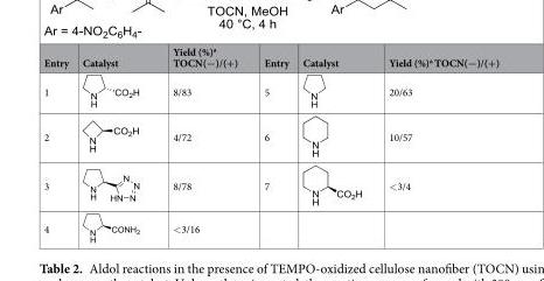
<table><thead><tr><td>Entry</td><td>Catalyst</td><td>Yield (%)<sup>a</sup> TOCN(−)/(+)</td><td>Entry</td><td>Catalyst</td><td>Yield (%)<sup>a</sup> TOCN(−)/(+)</td></tr></thead><tbody><tr><td>1</td><td></td><td>8/83</td><td>5</td><td></td><td>20/63</td></tr><tr><td>2</td><td></td><td>4/72</td><td>6</td><td></td><td>10/57</td></tr><tr><td>3</td><td></td><td>8/78</td><td>7</td><td></td><td>&lt;3/4</td></tr><tr><td>4</td><td></td><td>&lt;3/16</td><td></td><td></td><td></td></tr></tbody></table>